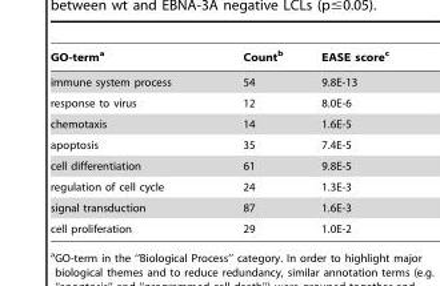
<table><thead><tr><td>GO-term<sup>a</sup></td><td>Count<sup>b</sup></td><td>EASE score<sup>c</sup></td></tr></thead><tbody><tr><td>immune system process</td><td>54</td><td>9.8E-13</td></tr><tr><td>response to virus</td><td>12</td><td>8.0E-6</td></tr><tr><td>chemotaxis</td><td>14</td><td>1.6E-5</td></tr><tr><td>apoptosis</td><td>35</td><td>7.4E-5</td></tr><tr><td>cell differentiation</td><td>61</td><td>9.8E-5</td></tr><tr><td>regulation of cell cycle</td><td>24</td><td>1.3E-3</td></tr><tr><td>signal transduction</td><td>87</td><td>1.6E-3</td></tr><tr><td>cell proliferation</td><td>29</td><td>1.0E-2</td></tr></tbody></table>